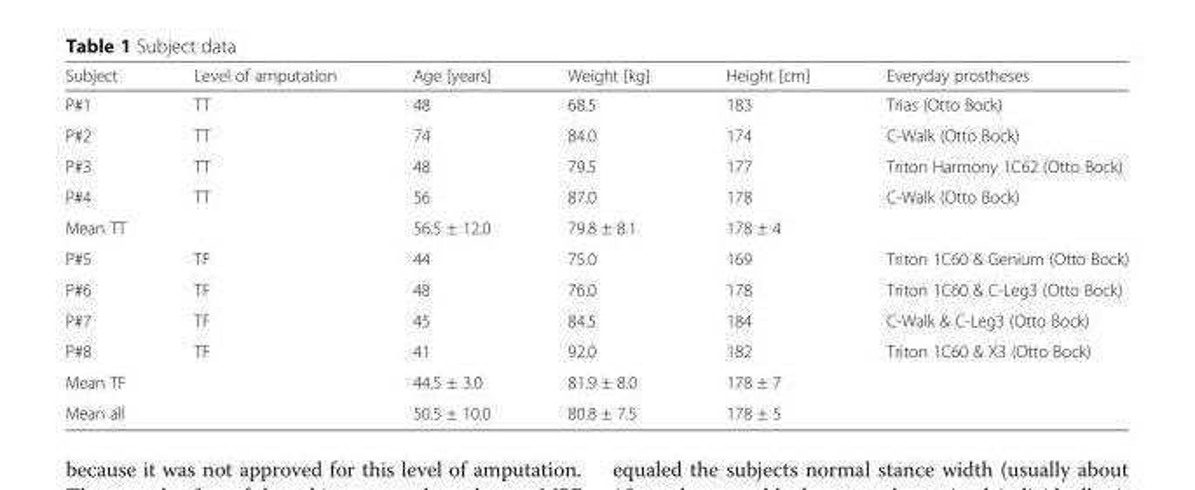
<table><thead><tr><td>Subject</td><td>Level of amputation</td><td>Age [years]</td><td>Weight [kg]</td><td>Height [cm]</td><td>Everyday prostheses</td></tr></thead><tbody><tr><td>P#1</td><td>TT</td><td>48</td><td>68.5</td><td>183</td><td>Trias (Otto Bock)</td></tr><tr><td>P#2</td><td>TT</td><td>74</td><td>84.0</td><td>174</td><td>C-Walk (Otto Bock)</td></tr><tr><td>P#3</td><td>TT</td><td>48</td><td>79.5</td><td>177</td><td>Triton Harmony 1C62 (Otto Bock)</td></tr><tr><td>P#4</td><td>TT</td><td>56</td><td>87.0</td><td>178</td><td>C-Walk (Otto Bock)</td></tr><tr><td colspan="2">Mean TT</td><td>56.5 ± 12.0</td><td>79.8 ± 8.1</td><td>178 ± 4</td><td></td></tr><tr><td>P#5</td><td>TF</td><td>44</td><td>75.0</td><td>169</td><td>Triton 1C60 &amp; Genium (Otto Bock)</td></tr><tr><td>P#6</td><td>TF</td><td>48</td><td>76.0</td><td>178</td><td>Triton 1C60 &amp; C-Leg3 (Otto Bock)</td></tr><tr><td>P#7</td><td>TF</td><td>45</td><td>84.5</td><td>184</td><td>C-Walk &amp; C-Leg3 (Otto Bock)</td></tr><tr><td>P#8</td><td>TF</td><td>41</td><td>92.0</td><td>182</td><td>Triton 1C60 &amp; X3 (Otto Bock)</td></tr><tr><td colspan="2">Mean TF</td><td>44.5 ± 3.0</td><td>81.9 ± 8.0</td><td>178 ± 7</td><td></td></tr><tr><td colspan="2">Mean all</td><td>50.5 ± 10.0</td><td>80.8 ± 7.5</td><td>178 ± 5</td><td></td></tr></tbody></table>